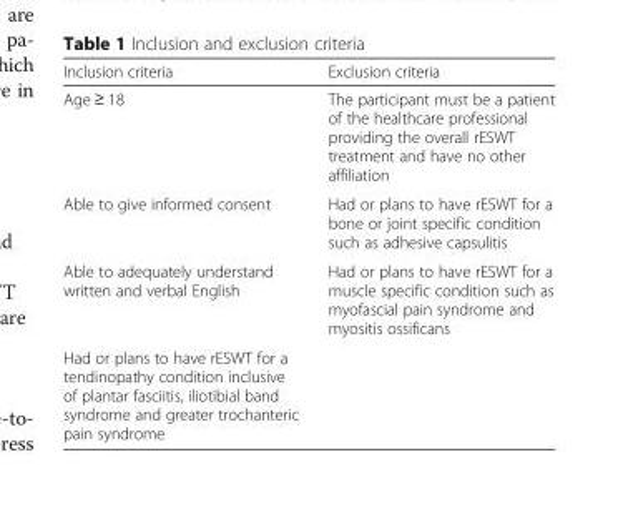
<table><thead><tr><td>Inclusion criteria</td><td>Exclusion criteria</td></tr></thead><tbody><tr><td>Age ≥ 18</td><td>The participant must be a patient of the healthcare professional providing the overall rESWT treatment and have no other affiliation</td></tr><tr><td>Able to give informed consent</td><td>Had or plans to have rESWT for a bone or joint specific condition such as adhesive capsulitis</td></tr><tr><td>Able to adequately understand written and verbal English</td><td>Had or plans to have rESWT for a muscle specific condition such as myofascial pain syndrome and myositis ossificans</td></tr><tr><td>Had or plans to have rESWT for a tendinopathy condition inclusive of plantar fasciitis, iliotibial band syndrome and greater trochanteric pain syndrome</td><td></td></tr></tbody></table>